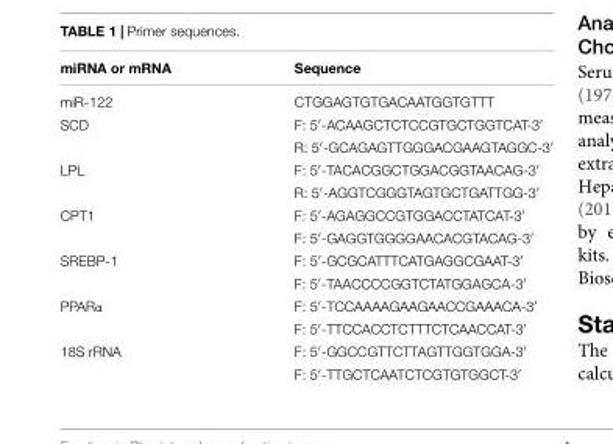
<table><thead><tr><td>miRNA or mRNA</td><td>Sequence</td></tr></thead><tbody><tr><td>miR-122</td><td>CTGGAGTGTGACAATGGTGTTT</td></tr><tr><td rowspan="2">SCD</td><td>F: 5′-ACAAGCTCTCCGTGCTGGTCAT-3′</td></tr><tr><td>R: 5′-GCAGAGTTGGGACGAAGTAGGC-3′</td></tr><tr><td rowspan="2">LPL</td><td>F: 5′-TACACGGCTGGACGGTAACAG-3′</td></tr><tr><td>R: 5′-AGGTCGGGTAGTGCTGATTGG-3′</td></tr><tr><td rowspan="2">CPT1</td><td>F: 5′-AGAGGCCGTGGACCTATCAT-3′</td></tr><tr><td>F: 5′-GAGGTGGGGAACACGTACAG-3′</td></tr><tr><td rowspan="2">SREBP-1</td><td>F: 5′-GCGCATTTCATGAGGCGAAT-3′</td></tr><tr><td>F: 5′-TAACCCCGGTCTATGGAGCA-3′</td></tr><tr><td rowspan="2">PPARα</td><td>F: 5′-TCCAAAAGAAGAACCGAAACA-3′</td></tr><tr><td>F: 5′-TTCCACCTCTTTCTCAACCAT-3′</td></tr><tr><td rowspan="2">18S rRNA</td><td>F: 5′-GGCCGTTCTTAGTTGGTGGA-3′</td></tr><tr><td>F: 5′-TTGCTCAATCTCGTGTGGCT-3′</td></tr></tbody></table>